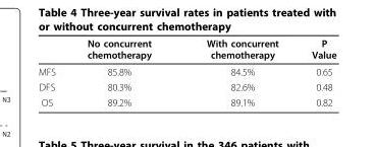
<table><thead><tr><td></td><td>No concurrent chemotherapy</td><td>With concurrent chemotherapy</td><td>P Value</td></tr></thead><tbody><tr><td>MFS</td><td>85.8%</td><td>84.5%</td><td>0.65</td></tr><tr><td>DFS</td><td>80.3%</td><td>82.6%</td><td>0.48</td></tr><tr><td>OS</td><td>89.2%</td><td>89.1%</td><td>0.82</td></tr></tbody></table>